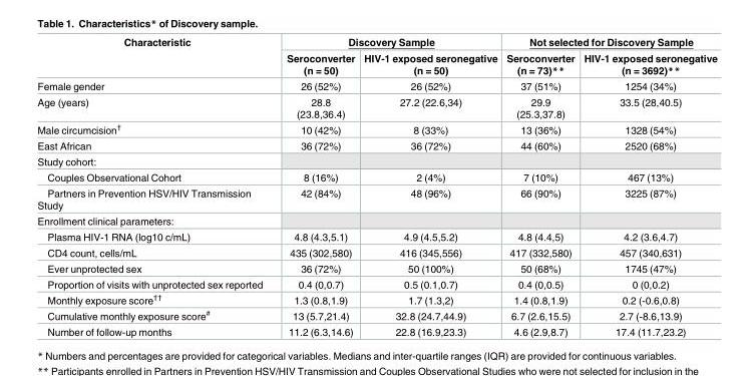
<table><thead><tr><td rowspan="2">Characteristic</td><td colspan="2">Discovery Sample</td><td colspan="2">Not selected for Discovery Sample</td></tr><tr><td>Seroconverter (n = 50)</td><td>HIV-1 exposed seronegative (n = 50)</td><td>Seroconverter (n = 73)**</td><td>HIV-1 exposed seronegative (n = 3692)**</td></tr></thead><tbody><tr><td>Female gender</td><td>26 (52%)</td><td>26 (52%)</td><td>37 (51%)</td><td>1254 (34%)</td></tr><tr><td>Age (years)</td><td>28.8 (23.8,36.4)</td><td>27.2 (22.6,34)</td><td>29.9 (25.3,37.8)</td><td>33.5 (28,40.5)</td></tr><tr><td>Male circumcision<sup>†</sup></td><td>10 (42%)</td><td>8 (33%)</td><td>13 (36%)</td><td>1328 (54%)</td></tr><tr><td>East African</td><td>36 (72%)</td><td>36 (72%)</td><td>44 (60%)</td><td>2520 (68%)</td></tr><tr><td colspan="5">Study cohort:</td></tr><tr><td>Couples Observational Cohort</td><td>8 (16%)</td><td>2 (4%)</td><td>7 (10%)</td><td>467 (13%)</td></tr><tr><td>Partners in Prevention HSV/HIV Transmission Study</td><td>42 (84%)</td><td>48 (96%)</td><td>66 (90%)</td><td>3225 (87%)</td></tr><tr><td colspan="5">Enrollment clinical parameters:</td></tr><tr><td>Plasma HIV-1 RNA (log10 c/mL)</td><td>4.8 (4.3,5.1)</td><td>4.9 (4.5,5.2)</td><td>4.8 (4.4,5)</td><td>4.2 (3.6,4.7)</td></tr><tr><td>CD4 count, cells/mL</td><td>435 (302,580)</td><td>416 (345,556)</td><td>417 (332,580)</td><td>457 (340,631)</td></tr><tr><td>Ever unprotected sex</td><td>36 (72%)</td><td>50 (100%)</td><td>50 (68%)</td><td>1745 (47%)</td></tr><tr><td>Proportion of visits with unprotected sex reported</td><td>0.4 (0,0.7)</td><td>0.5 (0.1,0.7)</td><td>0.4 (0,0.5)</td><td>0 (0,0.2)</td></tr><tr><td>Monthly exposure score<sup>††</sup></td><td>1.3 (0.8,1.9)</td><td>1.7 (1.3,2)</td><td>1.4 (0.8,1.9)</td><td>0.2 (-0.6,0.8)</td></tr><tr><td>Cumulative monthly exposure score<sup>#</sup></td><td>13 (5.7,21.4)</td><td>32.8 (24.7,44.9)</td><td>6.7 (2.6,15.5)</td><td>2.7 (-8.6,13.9)</td></tr><tr><td>Number of follow-up months</td><td>11.2 (6.3,14.6)</td><td>22.8 (16.9,23.3)</td><td>4.6 (2.9,8.7)</td><td>17.4 (11.7,23.2)</td></tr></tbody></table>